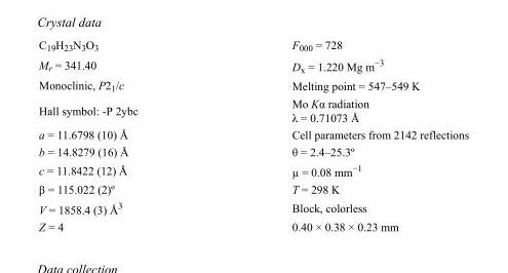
<table><tbody><tr><td>C<sub>19</sub>H<sub>23</sub>N<sub>3</sub>O<sub>3</sub></td><td>F000 = 728</td></tr><tr><td>M<sub>r</sub> = 341.40</td><td>D<sub>x</sub> = 1.220 Mg m<sup>−3</sup></td></tr><tr><td>Monoclinic, P2<sub>1</sub>/c</td><td>Melting point = 547–549 K</td></tr><tr><td>Hall symbol: -P 2ybc</td><td>Mo Kα radiation λ = 0.71073 Å</td></tr><tr><td>a = 11.6798 (10) Å</td><td>Cell parameters from 2142 reflections</td></tr><tr><td>b = 14.8279 (16) Å</td><td>θ = 2.4–25.3º</td></tr><tr><td>c = 11.8422 (12) Å</td><td>µ = 0.08 mm<sup>−1</sup></td></tr><tr><td>β = 115.022 (2)º</td><td>T = 298 K</td></tr><tr><td>V = 1858.4 (3) Å<sup>3</sup></td><td>Block, colorless</td></tr><tr><td>Z = 4</td><td>0.40 × 0.38 × 0.23 mm</td></tr></tbody></table>